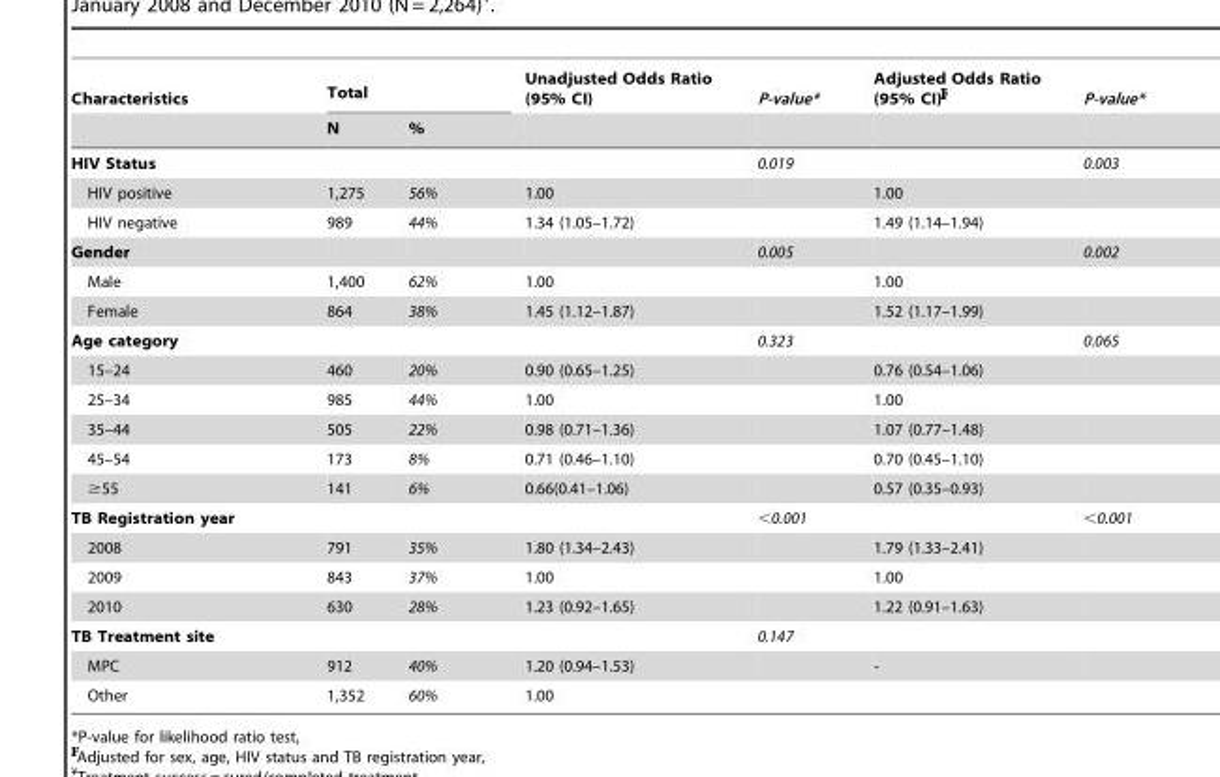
<table><thead><tr><td rowspan="2">Characteristics</td><td colspan="2">Total</td><td rowspan="2">Unadjusted Odds Ratio (95% CI)</td><td rowspan="2">P-value*</td><td rowspan="2">Adjusted Odds Ratio (95% CI)</td><td rowspan="2">P-value*</td></tr><tr><td>N</td><td>%</td></tr></thead><tbody><tr><td>HIV Status</td><td></td><td></td><td></td><td>0.019</td><td></td><td>0.003</td></tr><tr><td>HIV positive</td><td>1,275</td><td>56%</td><td>1.00</td><td></td><td>1.00</td><td></td></tr><tr><td>HIV negative</td><td>989</td><td>44%</td><td>1.34 (1.05–1.72)</td><td></td><td>1.49 (1.14–1.94)</td><td></td></tr><tr><td>Gender</td><td></td><td></td><td></td><td>0.005</td><td></td><td>0.002</td></tr><tr><td>Male</td><td>1,400</td><td>62%</td><td>1.00</td><td></td><td>1.00</td><td></td></tr><tr><td>Female</td><td>864</td><td>38%</td><td>1.45 (1.12–1.87)</td><td></td><td>1.52 (1.17–1.99)</td><td></td></tr><tr><td>Age category</td><td></td><td></td><td></td><td>0.323</td><td></td><td>0.065</td></tr><tr><td>15–24</td><td>460</td><td>20%</td><td>0.90 (0.65–1.25)</td><td></td><td>0.76 (0.54–1.06)</td><td></td></tr><tr><td>25–34</td><td>985</td><td>44%</td><td>1.00</td><td></td><td>1.00</td><td></td></tr><tr><td>35–44</td><td>505</td><td>22%</td><td>0.98 (0.71–1.36)</td><td></td><td>1.07 (0.77–1.48)</td><td></td></tr><tr><td>45–54</td><td>173</td><td>8%</td><td>0.71 (0.46–1.10)</td><td></td><td>0.70 (0.45–1.10)</td><td></td></tr><tr><td>≥55</td><td>141</td><td>6%</td><td>0.66(0.41–1.06)</td><td></td><td>0.57 (0.35–0.93)</td><td></td></tr><tr><td>TB Registration year</td><td></td><td></td><td></td><td>&lt;0.001</td><td></td><td>&lt;0.001</td></tr><tr><td>2008</td><td>791</td><td>35%</td><td>1.80 (1.34–2.43)</td><td></td><td>1.79 (1.33–2.41)</td><td></td></tr><tr><td>2009</td><td>843</td><td>37%</td><td>1.00</td><td></td><td>1.00</td><td></td></tr><tr><td>2010</td><td>630</td><td>28%</td><td>1.23 (0.92–1.65)</td><td></td><td>1.22 (0.91–1.63)</td><td></td></tr><tr><td>TB Treatment site</td><td></td><td></td><td></td><td>0.147</td><td></td><td></td></tr><tr><td>MPC</td><td>912</td><td>40%</td><td>1.20 (0.94–1.53)</td><td></td><td>-</td><td></td></tr><tr><td>Other</td><td>1,352</td><td>60%</td><td>1.00</td><td></td><td></td><td></td></tr></tbody></table>